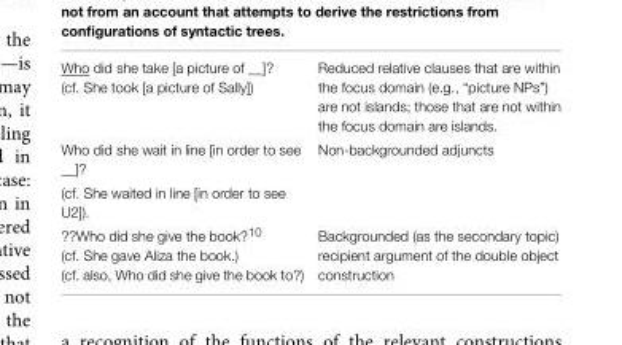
<table><tbody><tr><td>Who did she take [a picture of __]? (cf. She took [a picture of Sally])</td><td>Reduced relative clauses that are within the focus domain (e.g., “picture NPs”) are not islands; those that are not within the focus domain are islands.</td></tr><tr><td>Who did she wait in line [in order to see __]?</td><td>Non-backgrounded adjuncts</td></tr><tr><td colspan="2">(cf. She waited in line [in order to see U2]).</td></tr><tr><td>??Who did she give the book?<sup>10</sup> (cf. She gave Aliza the book.) (cf. also, Who did she give the book to?)</td><td>Backgrounded (as the secondary topic) recipient argument of the double object construction</td></tr></tbody></table>